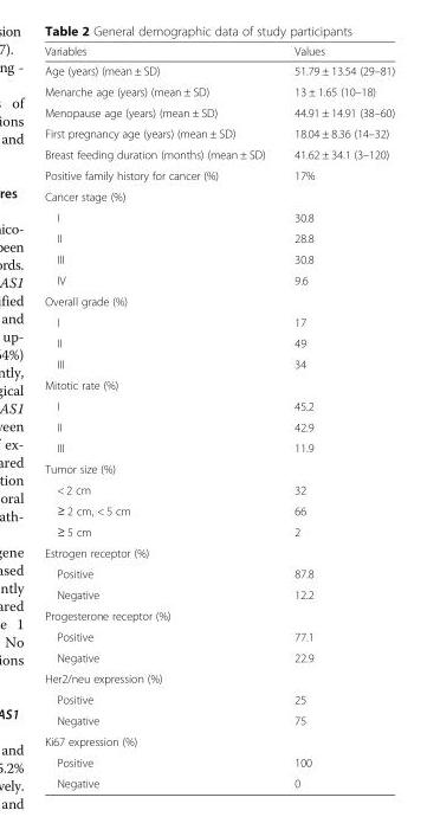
<table><thead><tr><td>Variables</td><td>Values</td></tr></thead><tbody><tr><td>Age (years) (mean ± SD)</td><td>51.79 ± 13.54 (29–81)</td></tr><tr><td>Menarche age (years) (mean ± SD)</td><td>13 ± 1.65 (10–18)</td></tr><tr><td>Menopause age (years) (mean ± SD)</td><td>44.91 ± 14.91 (38–60)</td></tr><tr><td>First pregnancy age (years) (mean ± SD)</td><td>18.04 ± 8.36 (14–32)</td></tr><tr><td>Breast feeding duration (months) (mean ± SD)</td><td>41.62 ± 34.1 (3–120)</td></tr><tr><td>Positive family history for cancer (%)</td><td>17%</td></tr><tr><td colspan="2">Cancer stage (%)</td></tr><tr><td>I</td><td>30.8</td></tr><tr><td>II</td><td>28.8</td></tr><tr><td>III</td><td>30.8</td></tr><tr><td>IV</td><td>9.6</td></tr><tr><td colspan="2">Overall grade (%)</td></tr><tr><td>I</td><td>17</td></tr><tr><td>II</td><td>49</td></tr><tr><td>III</td><td>34</td></tr><tr><td colspan="2">Mitotic rate (%)</td></tr><tr><td>I</td><td>45.2</td></tr><tr><td>II</td><td>42.9</td></tr><tr><td>III</td><td>11.9</td></tr><tr><td colspan="2">Tumor size (%)</td></tr><tr><td>&lt; 2 cm</td><td>32</td></tr><tr><td>≥ 2 cm, &lt; 5 cm</td><td>66</td></tr><tr><td>≥ 5 cm</td><td>2</td></tr><tr><td colspan="2">Estrogen receptor (%)</td></tr><tr><td>Positive</td><td>87.8</td></tr><tr><td>Negative</td><td>12.2</td></tr><tr><td colspan="2">Progesterone receptor (%)</td></tr><tr><td>Positive</td><td>77.1</td></tr><tr><td>Negative</td><td>22.9</td></tr><tr><td colspan="2">Her2/neu expression (%)</td></tr><tr><td>Positive</td><td>25</td></tr><tr><td>Negative</td><td>75</td></tr><tr><td colspan="2">Ki67 expression (%)</td></tr><tr><td>Positive</td><td>100</td></tr><tr><td>Negative</td><td>0</td></tr></tbody></table>